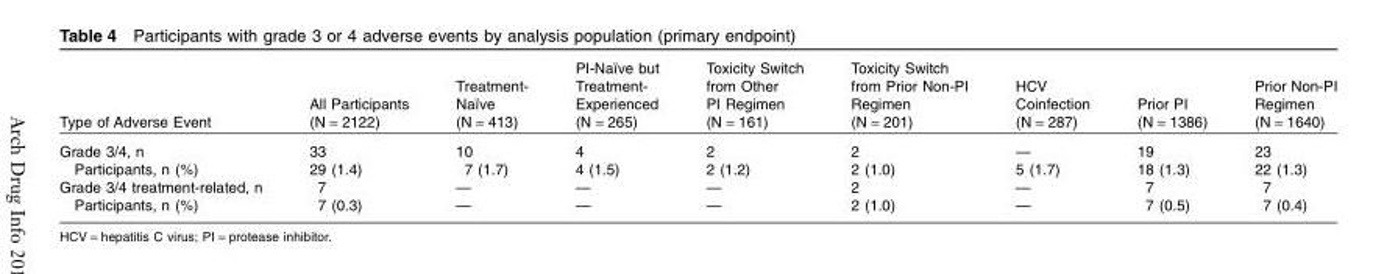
<table><thead><tr><td>Type of Adverse Event</td><td>All Participants (N = 2122)</td><td>Treatment- Naïve (N = 413)</td><td>PI-Naïve but Treatment- Experienced (N = 265)</td><td>Toxicity Switch from Other PI Regimen (N = 161)</td><td>Toxicity Switch from Prior Non-PI Regimen (N = 201)</td><td>HCV Coinfection (N = 287)</td><td>Prior PI (N = 1386)</td><td>Prior Non-PI Regimen (N = 1640)</td></tr></thead><tbody><tr><td>Grade 3/4, n</td><td>33</td><td>10</td><td>4</td><td>2</td><td>2</td><td>—</td><td>19</td><td>23</td></tr><tr><td>Participants, n (%)</td><td>29 (1.4)</td><td>7 (1.7)</td><td>4 (1.5)</td><td>2 (1.2)</td><td>2 (1.0)</td><td>5 (1.7)</td><td>18 (1.3)</td><td>22 (1.3)</td></tr><tr><td>Grade 3/4 treatment-related, n</td><td>7</td><td>—</td><td>—</td><td>—</td><td>2</td><td>—</td><td>7</td><td>7</td></tr><tr><td>Participants, n (%)</td><td>7 (0.3)</td><td>—</td><td>—</td><td>—</td><td>2 (1.0)</td><td>—</td><td>7 (0.5)</td><td>7 (0.4)</td></tr></tbody></table>